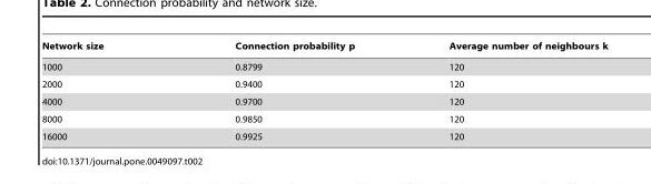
<table><thead><tr><td>Network size</td><td>Connection probability p</td><td>Average number of neighbours k</td></tr></thead><tbody><tr><td>1000</td><td>0.8799</td><td>120</td></tr><tr><td>2000</td><td>0.9400</td><td>120</td></tr><tr><td>4000</td><td>0.9700</td><td>120</td></tr><tr><td>8000</td><td>0.9850</td><td>120</td></tr><tr><td>16000</td><td>0.9925</td><td>120</td></tr></tbody></table>